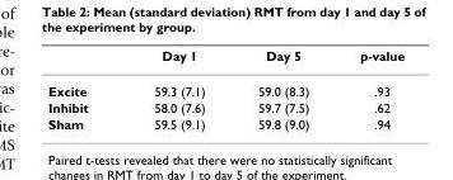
<table><thead><tr><td></td><td>Day 1</td><td>Day 5</td><td>p-value</td></tr></thead><tbody><tr><td>Excite</td><td>59.3 (7.1)</td><td>59.0 (8.3)</td><td>.93</td></tr><tr><td>Inhibit</td><td>58.0 (7.6)</td><td>59.7 (7.5)</td><td>.62</td></tr><tr><td>Sham</td><td>59.5 (9.1)</td><td>59.8 (9.0)</td><td>.94</td></tr></tbody></table>